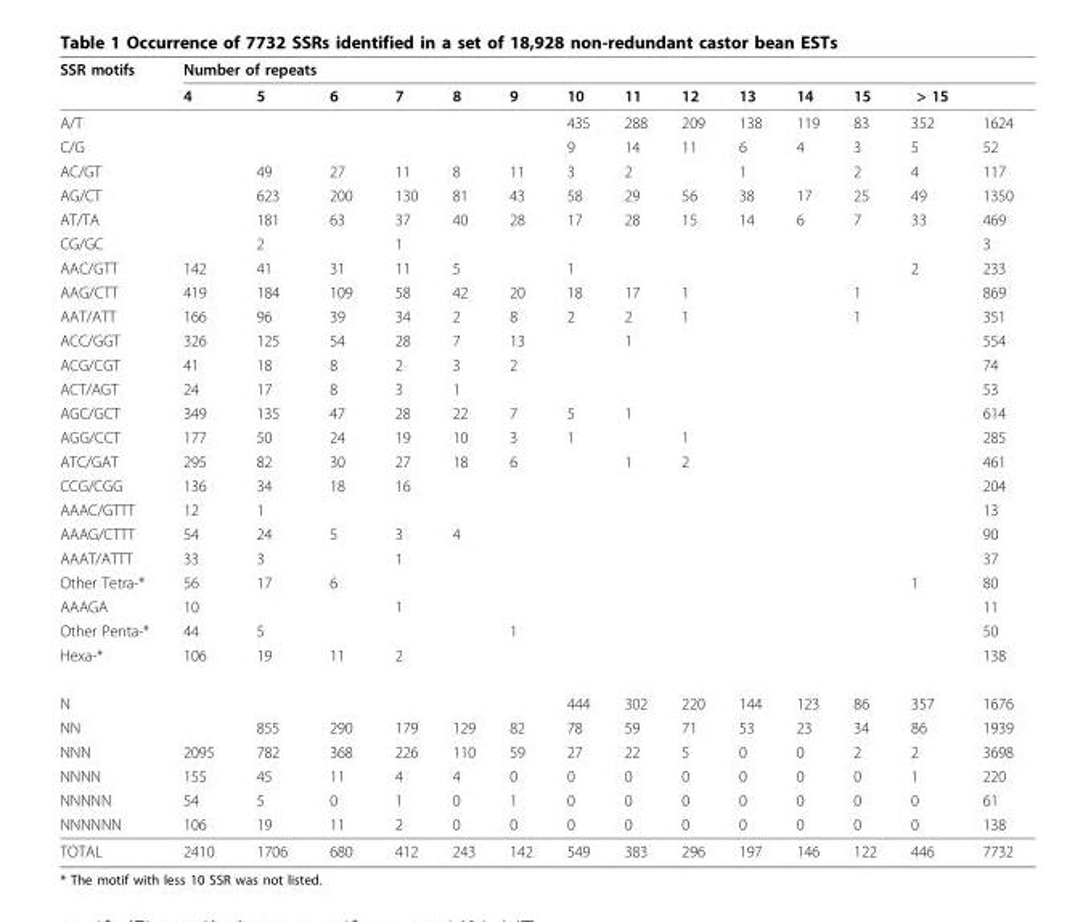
<table><thead><tr><td rowspan="2">SSR motifs</td><td colspan="3">Number of repeats</td><td rowspan="2">7</td><td rowspan="2">8</td><td rowspan="2">9</td><td rowspan="2">10</td><td rowspan="2">11</td><td rowspan="2">12</td><td rowspan="2">13</td><td rowspan="2">14</td><td rowspan="2">15</td><td rowspan="2">&gt; 15</td><td rowspan="2"></td></tr><tr><td>4</td><td>5</td><td>6</td></tr></thead><tbody><tr><td>A/T</td><td></td><td></td><td></td><td></td><td></td><td></td><td>435</td><td>288</td><td>209</td><td>138</td><td>119</td><td>83</td><td>352</td><td>1624</td></tr><tr><td>C/G</td><td></td><td></td><td></td><td></td><td></td><td></td><td>9</td><td>14</td><td>11</td><td>6</td><td>4</td><td>3</td><td>5</td><td>52</td></tr><tr><td>AC/GT</td><td></td><td>49</td><td>27</td><td>11</td><td>8</td><td>11</td><td>3</td><td>2</td><td></td><td>1</td><td></td><td>2</td><td>4</td><td>117</td></tr><tr><td>AG/CT</td><td></td><td>623</td><td>200</td><td>130</td><td>81</td><td>43</td><td>58</td><td>29</td><td>56</td><td>38</td><td>17</td><td>25</td><td>49</td><td>1350</td></tr><tr><td>AT/TA</td><td></td><td>181</td><td>63</td><td>37</td><td>40</td><td>28</td><td>17</td><td>28</td><td>15</td><td>14</td><td>6</td><td>7</td><td>33</td><td>469</td></tr><tr><td>CG/GC</td><td></td><td>2</td><td></td><td>1</td><td></td><td></td><td></td><td></td><td></td><td></td><td></td><td></td><td></td><td>3</td></tr><tr><td>AAC/GTT</td><td>142</td><td>41</td><td>31</td><td>11</td><td>5</td><td></td><td>1</td><td></td><td></td><td></td><td></td><td></td><td>2</td><td>233</td></tr><tr><td>AAG/CTT</td><td>419</td><td>184</td><td>109</td><td>58</td><td>42</td><td>20</td><td>18</td><td>17</td><td>1</td><td></td><td></td><td>1</td><td></td><td>869</td></tr><tr><td>AAT/ATT</td><td>166</td><td>96</td><td>39</td><td>34</td><td>2</td><td>8</td><td>2</td><td>2</td><td>1</td><td></td><td></td><td>1</td><td></td><td>351</td></tr><tr><td>ACC/GGT</td><td>326</td><td>125</td><td>54</td><td>28</td><td>7</td><td>13</td><td></td><td>1</td><td></td><td></td><td></td><td></td><td></td><td>554</td></tr><tr><td>ACG/CGT</td><td>41</td><td>18</td><td>8</td><td>2</td><td>3</td><td>2</td><td></td><td></td><td></td><td></td><td></td><td></td><td></td><td>74</td></tr><tr><td>ACT/AGT</td><td>24</td><td>17</td><td>8</td><td>3</td><td>1</td><td></td><td></td><td></td><td></td><td></td><td></td><td></td><td></td><td>53</td></tr><tr><td>AGC/GCT</td><td>349</td><td>135</td><td>47</td><td>28</td><td>22</td><td>7</td><td>5</td><td>1</td><td></td><td></td><td></td><td></td><td></td><td>614</td></tr><tr><td>AGG/CCT</td><td>177</td><td>50</td><td>24</td><td>19</td><td>10</td><td>3</td><td>1</td><td></td><td>1</td><td></td><td></td><td></td><td></td><td>285</td></tr><tr><td>ATC/GAT</td><td>295</td><td>82</td><td>30</td><td>27</td><td>18</td><td>6</td><td></td><td>1</td><td>2</td><td></td><td></td><td></td><td></td><td>461</td></tr><tr><td>CCG/CGG</td><td>136</td><td>34</td><td>18</td><td>16</td><td></td><td></td><td></td><td></td><td></td><td></td><td></td><td></td><td></td><td>204</td></tr><tr><td>AAAC/GTTT</td><td>12</td><td>1</td><td></td><td></td><td></td><td></td><td></td><td></td><td></td><td></td><td></td><td></td><td></td><td>13</td></tr><tr><td>AAAG/CTTT</td><td>54</td><td>24</td><td>5</td><td>3</td><td>4</td><td></td><td></td><td></td><td></td><td></td><td></td><td></td><td></td><td>90</td></tr><tr><td>AAAT/ATTT</td><td>33</td><td>3</td><td></td><td>1</td><td></td><td></td><td></td><td></td><td></td><td></td><td></td><td></td><td></td><td>37</td></tr><tr><td>Other Tetra-*</td><td>56</td><td>17</td><td>6</td><td></td><td></td><td></td><td></td><td></td><td></td><td></td><td></td><td></td><td>1</td><td>80</td></tr><tr><td>AAAGA</td><td>10</td><td></td><td></td><td>1</td><td></td><td></td><td></td><td></td><td></td><td></td><td></td><td></td><td></td><td>11</td></tr><tr><td>Other Penta-*</td><td>44</td><td>5</td><td></td><td></td><td></td><td>1</td><td></td><td></td><td></td><td></td><td></td><td></td><td></td><td>50</td></tr><tr><td>Hexa-*</td><td>106</td><td>19</td><td>11</td><td>2</td><td></td><td></td><td></td><td></td><td></td><td></td><td></td><td></td><td></td><td>138</td></tr><tr><td>N</td><td></td><td></td><td></td><td></td><td></td><td></td><td>444</td><td>302</td><td>220</td><td>144</td><td>123</td><td>86</td><td>357</td><td>1676</td></tr><tr><td>NN</td><td></td><td>855</td><td>290</td><td>179</td><td>129</td><td>82</td><td>78</td><td>59</td><td>71</td><td>53</td><td>23</td><td>34</td><td>86</td><td>1939</td></tr><tr><td>NNN</td><td>2095</td><td>782</td><td>368</td><td>226</td><td>110</td><td>59</td><td>27</td><td>22</td><td>5</td><td>0</td><td>0</td><td>2</td><td>2</td><td>3698</td></tr><tr><td>NNNN</td><td>155</td><td>45</td><td>11</td><td>4</td><td>4</td><td>0</td><td>0</td><td>0</td><td>0</td><td>0</td><td>0</td><td>0</td><td>1</td><td>220</td></tr><tr><td>NNNNN</td><td>54</td><td>5</td><td>0</td><td>1</td><td>0</td><td>1</td><td>0</td><td>0</td><td>0</td><td>0</td><td>0</td><td>0</td><td>0</td><td>61</td></tr><tr><td>NNNNNN</td><td>106</td><td>19</td><td>11</td><td>2</td><td>0</td><td>0</td><td>0</td><td>0</td><td>0</td><td>0</td><td>0</td><td>0</td><td>0</td><td>138</td></tr><tr><td>TOTAL</td><td>2410</td><td>1706</td><td>680</td><td>412</td><td>243</td><td>142</td><td>549</td><td>383</td><td>296</td><td>197</td><td>146</td><td>122</td><td>446</td><td>7732</td></tr></tbody></table>